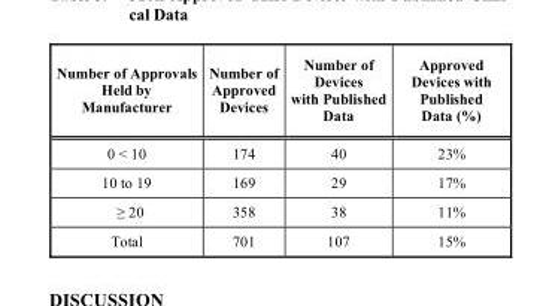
<table><thead><tr><td>Number of Approvals Held by Manufacturer</td><td>Number of Approved Devices</td><td>Number of Devices with Published Data</td><td>Approved Devices with Published Data (%)</td></tr></thead><tbody><tr><td>0 &lt; 10</td><td>174</td><td>40</td><td>23%</td></tr><tr><td>10 to 19</td><td>169</td><td>29</td><td>17%</td></tr><tr><td>≥ 20</td><td>358</td><td>38</td><td>11%</td></tr><tr><td>Total</td><td>701</td><td>107</td><td>15%</td></tr></tbody></table>